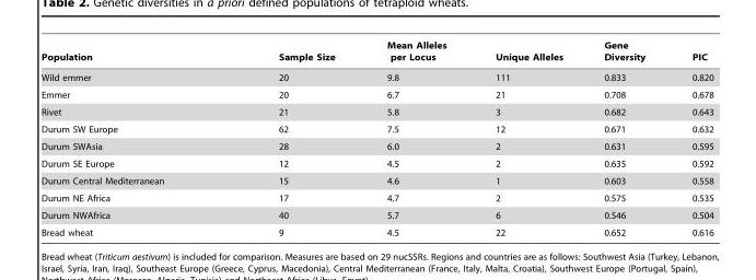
<table><thead><tr><td>Population</td><td>Sample Size</td><td>Mean Alleles per Locus</td><td>Unique Alleles</td><td>Gene Diversity</td><td>PIC</td></tr></thead><tbody><tr><td>Wild emmer</td><td>20</td><td>9.8</td><td>111</td><td>0.833</td><td>0.820</td></tr><tr><td>Emmer</td><td>20</td><td>6.7</td><td>21</td><td>0.708</td><td>0.678</td></tr><tr><td>Rivet</td><td>21</td><td>5.8</td><td>3</td><td>0.682</td><td>0.643</td></tr><tr><td>Durum SW Europe</td><td>62</td><td>7.5</td><td>12</td><td>0.671</td><td>0.632</td></tr><tr><td>Durum SWAsia</td><td>28</td><td>6.0</td><td>2</td><td>0.631</td><td>0.595</td></tr><tr><td>Durum SE Europe</td><td>12</td><td>4.5</td><td>2</td><td>0.635</td><td>0.592</td></tr><tr><td>Durum Central Mediterranean</td><td>15</td><td>4.6</td><td>1</td><td>0.603</td><td>0.558</td></tr><tr><td>Durum NE Africa</td><td>17</td><td>4.7</td><td>2</td><td>0.575</td><td>0.535</td></tr><tr><td>Durum NWAfrica</td><td>40</td><td>5.7</td><td>6</td><td>0.546</td><td>0.504</td></tr><tr><td>Bread wheat</td><td>9</td><td>4.5</td><td>22</td><td>0.652</td><td>0.616</td></tr></tbody></table>